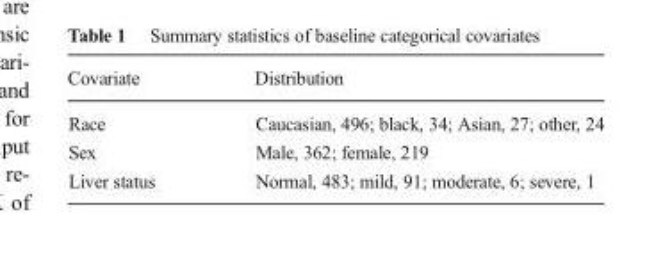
<table><thead><tr><td>Covariate</td><td>Distribution</td></tr></thead><tbody><tr><td>Race</td><td>Caucasian, 496; black, 34; Asian, 27; other, 24</td></tr><tr><td>Sex</td><td>Male, 362; female, 219</td></tr><tr><td>Liver status</td><td>Normal, 483; mild, 91; moderate, 6; severe, 1</td></tr></tbody></table>